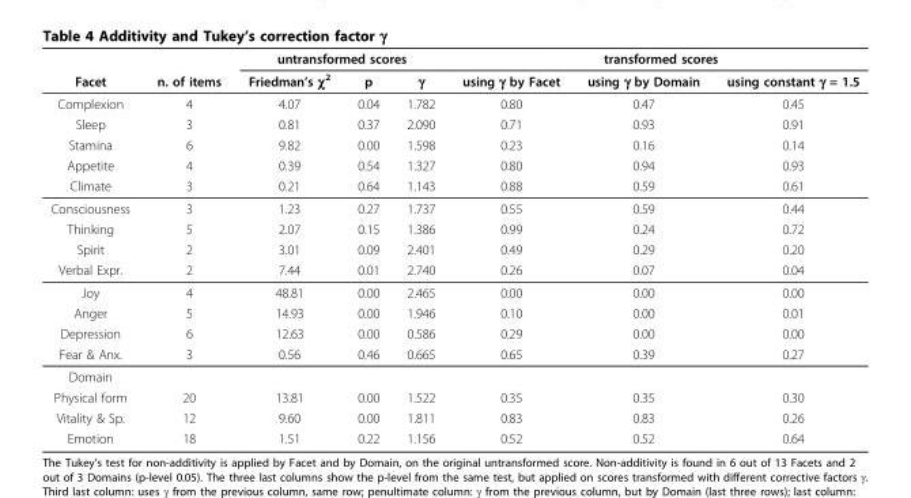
<table><thead><tr><td rowspan="2">Facet</td><td rowspan="2">n. of items</td><td colspan="3">untransformed scores</td><td colspan="3">transformed scores</td></tr><tr><td>Friedman’s χ<sup>2</sup></td><td>p</td><td>γ</td><td>using γ by Facet</td><td>using γ by Domain</td><td>using constant γ = 1.5</td></tr></thead><tbody><tr><td>Complexion</td><td>4</td><td>4.07</td><td>0.04</td><td>1.782</td><td>0.80</td><td>0.47</td><td>0.45</td></tr><tr><td>Sleep</td><td>3</td><td>0.81</td><td>0.37</td><td>2.090</td><td>0.71</td><td>0.93</td><td>0.91</td></tr><tr><td>Stamina</td><td>6</td><td>9.82</td><td>0.00</td><td>1.598</td><td>0.23</td><td>0.16</td><td>0.14</td></tr><tr><td>Appetite</td><td>4</td><td>0.39</td><td>0.54</td><td>1.327</td><td>0.80</td><td>0.94</td><td>0.93</td></tr><tr><td>Climate</td><td>3</td><td>0.21</td><td>0.64</td><td>1.143</td><td>0.88</td><td>0.59</td><td>0.61</td></tr><tr><td>Consciousness</td><td>3</td><td>1.23</td><td>0.27</td><td>1.737</td><td>0.55</td><td>0.59</td><td>0.44</td></tr><tr><td>Thinking</td><td>5</td><td>2.07</td><td>0.15</td><td>1.386</td><td>0.99</td><td>0.24</td><td>0.72</td></tr><tr><td>Spirit</td><td>2</td><td>3.01</td><td>0.09</td><td>2.401</td><td>0.49</td><td>0.29</td><td>0.20</td></tr><tr><td>Verbal Expr.</td><td>2</td><td>7.44</td><td>0.01</td><td>2.740</td><td>0.26</td><td>0.07</td><td>0.04</td></tr><tr><td>Joy</td><td>4</td><td>48.81</td><td>0.00</td><td>2.465</td><td>0.00</td><td>0.00</td><td>0.00</td></tr><tr><td>Anger</td><td>5</td><td>14.93</td><td>0.00</td><td>1.946</td><td>0.10</td><td>0.00</td><td>0.01</td></tr><tr><td>Depression</td><td>6</td><td>12.63</td><td>0.00</td><td>0.586</td><td>0.29</td><td>0.00</td><td>0.00</td></tr><tr><td>Fear &amp; Anx.</td><td>3</td><td>0.56</td><td>0.46</td><td>0.665</td><td>0.65</td><td>0.39</td><td>0.27</td></tr><tr><td colspan="8">Domain</td></tr><tr><td>Physical form</td><td>20</td><td>13.81</td><td>0.00</td><td>1.522</td><td>0.35</td><td>0.35</td><td>0.30</td></tr><tr><td>Vitality &amp; Sp.</td><td>12</td><td>9.60</td><td>0.00</td><td>1.811</td><td>0.83</td><td>0.83</td><td>0.26</td></tr><tr><td>Emotion</td><td>18</td><td>1.51</td><td>0.22</td><td>1.156</td><td>0.52</td><td>0.52</td><td>0.64</td></tr></tbody></table>